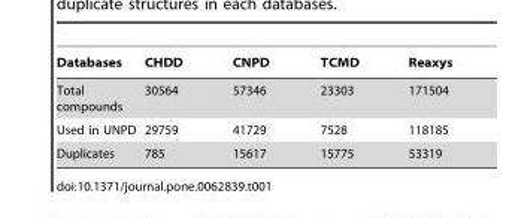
<table><thead><tr><td>Databases</td><td>CHDD</td><td>CNPD</td><td>TCMD</td><td>Reaxys</td></tr></thead><tbody><tr><td>Total compounds</td><td>30564</td><td>57346</td><td>23303</td><td>171504</td></tr><tr><td>Used in UNPD</td><td>29759</td><td>41729</td><td>7528</td><td>118185</td></tr><tr><td>Duplicates</td><td>785</td><td>15617</td><td>15775</td><td>53319</td></tr></tbody></table>